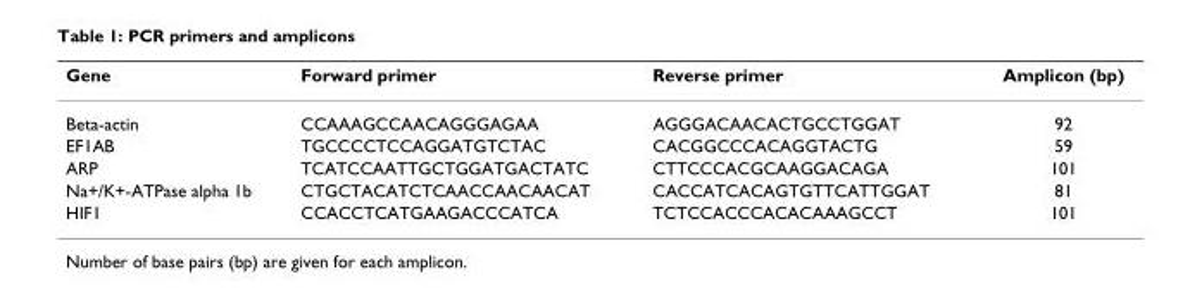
<table><thead><tr><td>Gene</td><td>Forward primer</td><td>Reverse primer</td><td>Amplicon (bp)</td></tr></thead><tbody><tr><td>Beta-actin</td><td>CCAAAGCCAACAGGGAGAA</td><td>AGGGACAACACTGCCTGGAT</td><td>92</td></tr><tr><td>EF1AB</td><td>TGCCCCTCCAGGATGTCTAC</td><td>CACGGCCCACAGGTACTG</td><td>59</td></tr><tr><td>ARP</td><td>TCATCCAATTGCTGGATGACTATC</td><td>CTTCCCACGCAAGGACAGA</td><td>101</td></tr><tr><td>Na+/K+-ATPase alpha 1b</td><td>CTGCTACATCTCAACCAACAACAT</td><td>CACCATCACAGTGTTCATTGGAT</td><td>81</td></tr><tr><td>HIF1</td><td>CCACCTCATGAAGACCCATCA</td><td>TCTCCACCCACACAAAGCCT</td><td>101</td></tr></tbody></table>